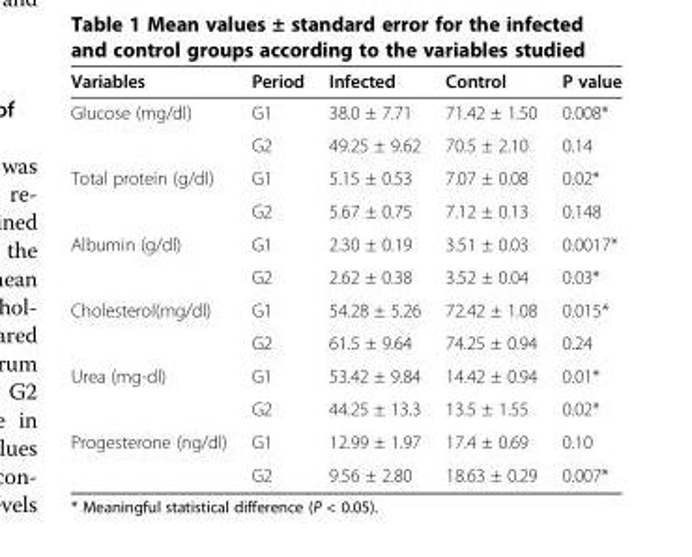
<table><thead><tr><td>Variables</td><td>Period</td><td>Infected</td><td>Control</td><td>P value</td></tr></thead><tbody><tr><td rowspan="2">Glucose (mg/dl)</td><td>G1</td><td>38.0 ± 7.71</td><td>71.42 ± 1.50</td><td>0.008*</td></tr><tr><td>G2</td><td>49.25 ± 9.62</td><td>70.5 ± 2.10</td><td>0.14</td></tr><tr><td rowspan="2">Total protein (g/dl)</td><td>G1</td><td>5.15 ± 0.53</td><td>7.07 ± 0.08</td><td>0.02*</td></tr><tr><td>G2</td><td>5.67 ± 0.75</td><td>7.12 ± 0.13</td><td>0.148</td></tr><tr><td rowspan="2">Albumin (g/dl)</td><td>G1</td><td>2.30 ± 0.19</td><td>3.51 ± 0.03</td><td>0.0017*</td></tr><tr><td>G2</td><td>2.62 ± 0.38</td><td>3.52 ± 0.04</td><td>0.03*</td></tr><tr><td rowspan="2">Cholesterol(mg/dl)</td><td>G1</td><td>54.28 ± 5.26</td><td>72.42 ± 1.08</td><td>0.015*</td></tr><tr><td>G2</td><td>61.5 ± 9.64</td><td>74.25 ± 0.94</td><td>0.24</td></tr><tr><td rowspan="2">Urea (mg-dl)</td><td>G1</td><td>53.42 ± 9.84</td><td>14.42 ± 0.94</td><td>0.01*</td></tr><tr><td>G2</td><td>44.25 ± 13.3</td><td>13.5 ± 1.55</td><td>0.02*</td></tr><tr><td rowspan="2">Progesterone (ng/dl)</td><td>G1</td><td>12.99 ± 1.97</td><td>17.4 ± 0.69</td><td>0.10</td></tr><tr><td>G2</td><td>9.56 ± 2.80</td><td>18.63 ± 0.29</td><td>0.007*</td></tr></tbody></table>